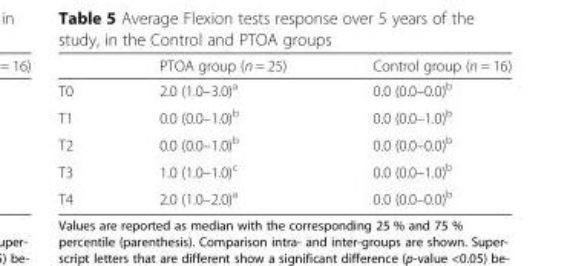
<table><thead><tr><td></td><td>PTOA group (n = 25)</td><td>Control group (n = 16)</td></tr></thead><tbody><tr><td>T0</td><td>2.0 (1.0–3.0)<sup>a</sup></td><td>0.0 (0.0–0.0)<sup>b</sup></td></tr><tr><td>T1</td><td>0.0 (0.0–1.0)<sup>b</sup></td><td>0.0 (0.0–1.0)<sup>b</sup></td></tr><tr><td>T2</td><td>0.0 (0.0–1.0)<sup>b</sup></td><td>0.0 (0.0–0.0)<sup>b</sup></td></tr><tr><td>T3</td><td>1.0 (1.0–1.0)<sup>c</sup></td><td>0.0 (0.0–1.0)<sup>b</sup></td></tr><tr><td>T4</td><td>2.0 (1.0–2.0)<sup>a</sup></td><td>0.0 (0.0–0.0)<sup>b</sup></td></tr></tbody></table>